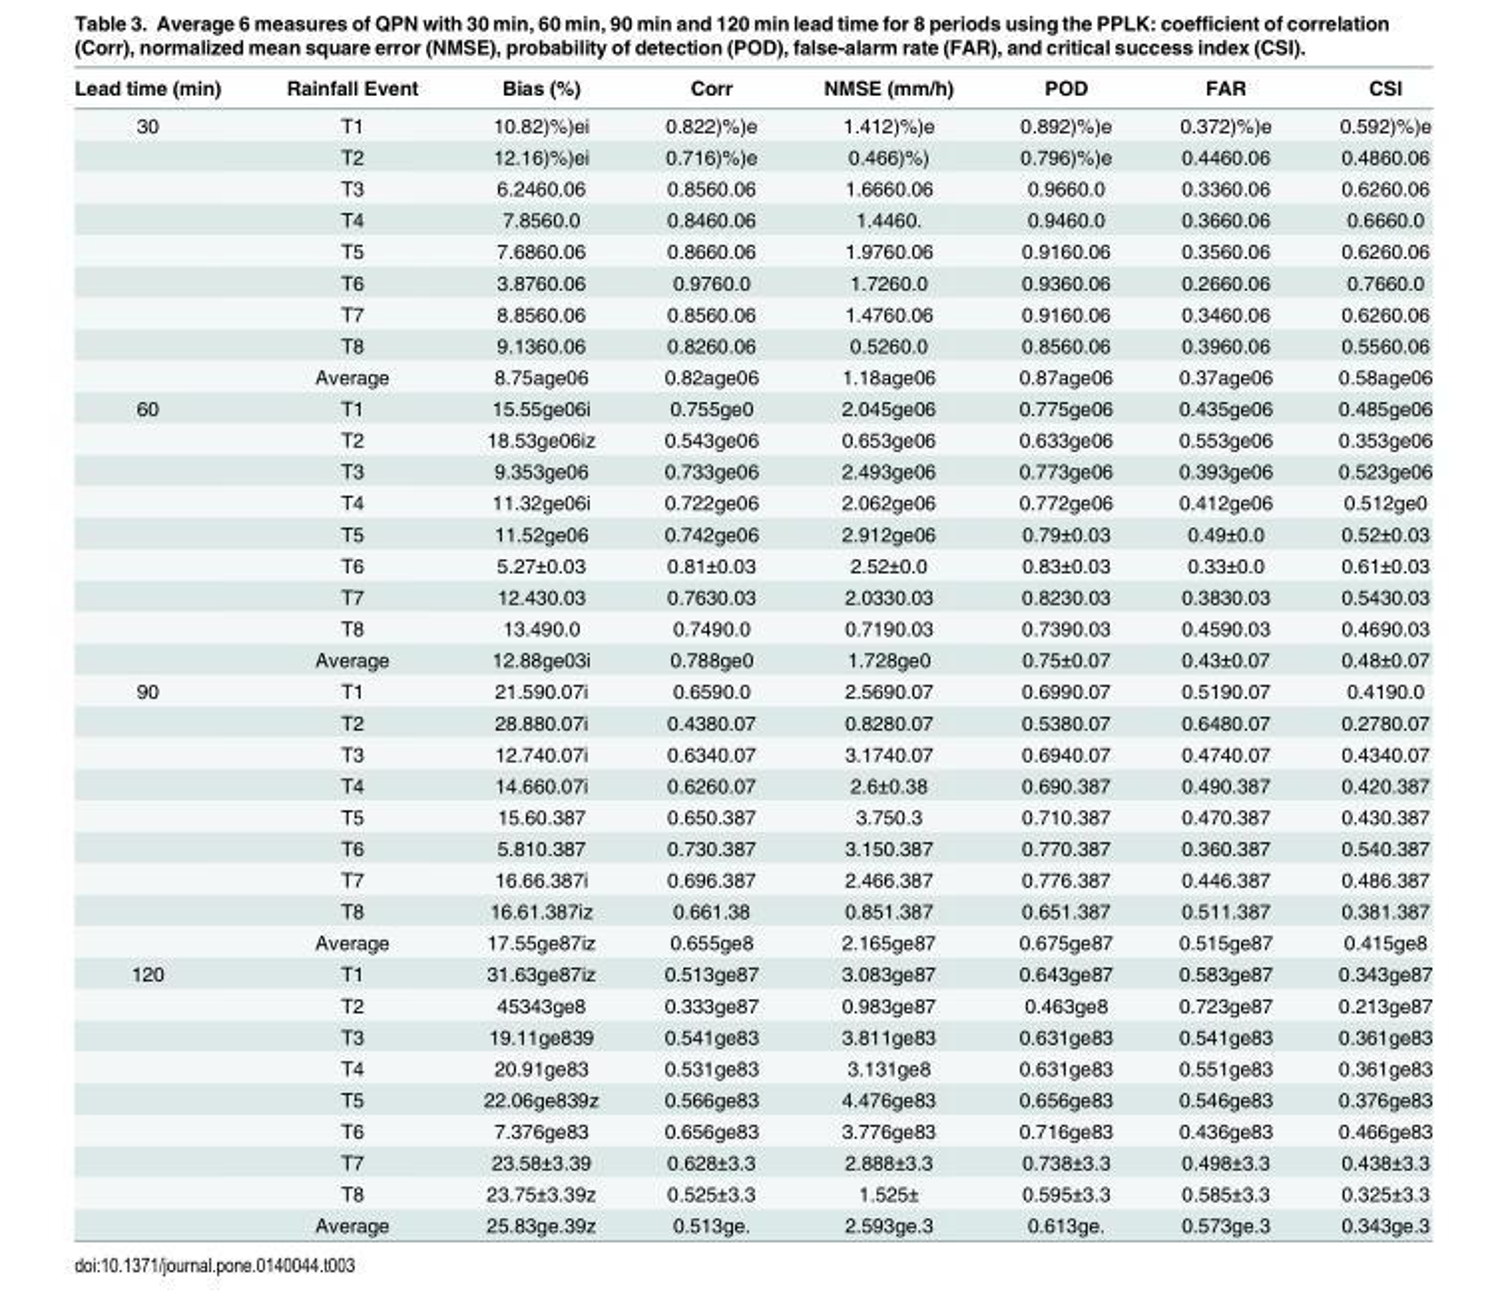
<table><thead><tr><td>Lead time (min)</td><td>Rainfall Event</td><td>Bias (%)</td><td>Corr</td><td>NMSE (mm/h)</td><td>POD</td><td>FAR</td><td>CSI</td></tr></thead><tbody><tr><td rowspan="9">30</td><td>T1</td><td>10.82)%)ei</td><td>0.822)%)e</td><td>1.412)%)e</td><td>0.892)%)e</td><td>0.372)%)e</td><td>0.592)%)e</td></tr><tr><td>T2</td><td>12.16)%)ei</td><td>0.716)%)e</td><td>0.466)%)</td><td>0.796)%)e</td><td>0.4460.06</td><td>0.4860.06</td></tr><tr><td>T3</td><td>6.2460.06</td><td>0.8560.06</td><td>1.6660.06</td><td>0.9660.0</td><td>0.3360.06</td><td>0.6260.06</td></tr><tr><td>T4</td><td>7.8560.0</td><td>0.8460.06</td><td>1.4460.</td><td>0.9460.0</td><td>0.3660.06</td><td>0.6660.0</td></tr><tr><td>T5</td><td>7.6860.06</td><td>0.8660.06</td><td>1.9760.06</td><td>0.9160.06</td><td>0.3560.06</td><td>0.6260.06</td></tr><tr><td>T6</td><td>3.8760.06</td><td>0.9760.0</td><td>1.7260.0</td><td>0.9360.06</td><td>0.2660.06</td><td>0.7660.0</td></tr><tr><td>T7</td><td>8.8560.06</td><td>0.8560.06</td><td>1.4760.06</td><td>0.9160.06</td><td>0.3460.06</td><td>0.6260.06</td></tr><tr><td>T8</td><td>9.1360.06</td><td>0.8260.06</td><td>0.5260.0</td><td>0.8560.06</td><td>0.3960.06</td><td>0.5560.06</td></tr><tr><td>Average</td><td>8.75age06</td><td>0.82age06</td><td>1.18age06</td><td>0.87age06</td><td>0.37age06</td><td>0.58age06</td></tr><tr><td rowspan="9">60</td><td>T1</td><td>15.55ge06i</td><td>0.755ge0</td><td>2.045ge06</td><td>0.775ge06</td><td>0.435ge06</td><td>0.485ge06</td></tr><tr><td>T2</td><td>18.53ge06iz</td><td>0.543ge06</td><td>0.653ge06</td><td>0.633ge06</td><td>0.553ge06</td><td>0.353ge06</td></tr><tr><td>T3</td><td>9.353ge06</td><td>0.733ge06</td><td>2.493ge06</td><td>0.773ge06</td><td>0.393ge06</td><td>0.523ge06</td></tr><tr><td>T4</td><td>11.32ge06i</td><td>0.722ge06</td><td>2.062ge06</td><td>0.772ge06</td><td>0.412ge06</td><td>0.512ge0</td></tr><tr><td>T5</td><td>11.52ge06</td><td>0.742ge06</td><td>2.912ge06</td><td>0.79±0.03</td><td>0.49±0.0</td><td>0.52±0.03</td></tr><tr><td>T6</td><td>5.27±0.03</td><td>0.81±0.03</td><td>2.52±0.0</td><td>0.83±0.03</td><td>0.33±0.0</td><td>0.61±0.03</td></tr><tr><td>T7</td><td>12.430.03</td><td>0.7630.03</td><td>2.0330.03</td><td>0.8230.03</td><td>0.3830.03</td><td>0.5430.03</td></tr><tr><td>T8</td><td>13.490.0</td><td>0.7490.0</td><td>0.7190.03</td><td>0.7390.03</td><td>0.4590.03</td><td>0.4690.03</td></tr><tr><td>Average</td><td>12.88ge03i</td><td>0.788ge0</td><td>1.728ge0</td><td>0.75±0.07</td><td>0.43±0.07</td><td>0.48±0.07</td></tr><tr><td rowspan="9">90</td><td>T1</td><td>21.590.07i</td><td>0.6590.0</td><td>2.5690.07</td><td>0.6990.07</td><td>0.5190.07</td><td>0.4190.0</td></tr><tr><td>T2</td><td>28.880.07i</td><td>0.4380.07</td><td>0.8280.07</td><td>0.5380.07</td><td>0.6480.07</td><td>0.2780.07</td></tr><tr><td>T3</td><td>12.740.07i</td><td>0.6340.07</td><td>3.1740.07</td><td>0.6940.07</td><td>0.4740.07</td><td>0.4340.07</td></tr><tr><td>T4</td><td>14.660.07i</td><td>0.6260.07</td><td>2.6±0.38</td><td>0.690.387</td><td>0.490.387</td><td>0.420.387</td></tr><tr><td>T5</td><td>15.60.387</td><td>0.650.387</td><td>3.750.3</td><td>0.710.387</td><td>0.470.387</td><td>0.430.387</td></tr><tr><td>T6</td><td>5.810.387</td><td>0.730.387</td><td>3.150.387</td><td>0.770.387</td><td>0.360.387</td><td>0.540.387</td></tr><tr><td>T7</td><td>16.66.387i</td><td>0.696.387</td><td>2.466.387</td><td>0.776.387</td><td>0.446.387</td><td>0.486.387</td></tr><tr><td>T8</td><td>16.61.387iz</td><td>0.661.38</td><td>0.851.387</td><td>0.651.387</td><td>0.511.387</td><td>0.381.387</td></tr><tr><td>Average</td><td>17.55ge87iz</td><td>0.655ge8</td><td>2.165ge87</td><td>0.675ge87</td><td>0.515ge87</td><td>0.415ge8</td></tr><tr><td rowspan="9">120</td><td>T1</td><td>31.63ge87iz</td><td>0.513ge87</td><td>3.083ge87</td><td>0.643ge87</td><td>0.583ge87</td><td>0.343ge87</td></tr><tr><td>T2</td><td>45343ge8</td><td>0.333ge87</td><td>0.983ge87</td><td>0.463ge8</td><td>0.723ge87</td><td>0.213ge87</td></tr><tr><td>T3</td><td>19.11ge839</td><td>0.541ge83</td><td>3.811ge83</td><td>0.631ge83</td><td>0.541ge83</td><td>0.361ge83</td></tr><tr><td>T4</td><td>20.91ge83</td><td>0.531ge83</td><td>3.131ge8</td><td>0.631ge83</td><td>0.551ge83</td><td>0.361ge83</td></tr><tr><td>T5</td><td>22.06ge839z</td><td>0.566ge83</td><td>4.476ge83</td><td>0.656ge83</td><td>0.546ge83</td><td>0.376ge83</td></tr><tr><td>T6</td><td>7.376ge83</td><td>0.656ge83</td><td>3.776ge83</td><td>0.716ge83</td><td>0.436ge83</td><td>0.466ge83</td></tr><tr><td>T7</td><td>23.58±3.39</td><td>0.628±3.3</td><td>2.888±3.3</td><td>0.738±3.3</td><td>0.498±3.3</td><td>0.438±3.3</td></tr><tr><td>T8</td><td>23.75±3.39z</td><td>0.525±3.3</td><td>1.525±</td><td>0.595±3.3</td><td>0.585±3.3</td><td>0.325±3.3</td></tr><tr><td>Average</td><td>25.83ge.39z</td><td>0.513ge.</td><td>2.593ge.3</td><td>0.613ge.</td><td>0.573ge.3</td><td>0.343ge.3</td></tr></tbody></table>